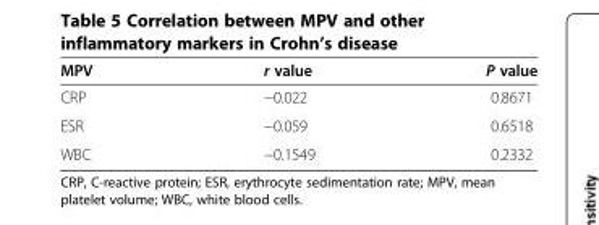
<table><thead><tr><td>MPV</td><td>r value</td><td>P value</td></tr></thead><tbody><tr><td>CRP</td><td>−0.022</td><td>0.8671</td></tr><tr><td>ESR</td><td>−0.059</td><td>0.6518</td></tr><tr><td>WBC</td><td>−0.1549</td><td>0.2332</td></tr></tbody></table>